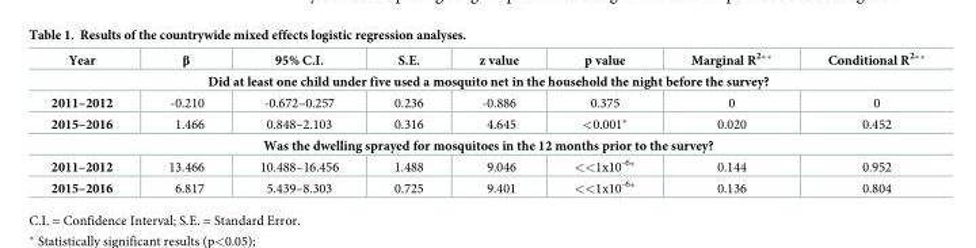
<table><thead><tr><td>Year</td><td>β</td><td>95% C.I.</td><td>S.E.</td><td>z value</td><td>p value</td><td>Marginal R<sup>2</sup>**</td><td>Conditional R<sup>2</sup>**</td></tr></thead><tbody><tr><td colspan="8">Did at least one child under five used a mosquito net in the household the night before the survey?</td></tr><tr><td>2011–2012</td><td>-0.210</td><td>-0.672–0.257</td><td>0.236</td><td>-0.886</td><td>0.375</td><td>0</td><td>0</td></tr><tr><td>2015–2016</td><td>1.466</td><td>0.848–2.103</td><td>0.316</td><td>4.645</td><td>&lt;0.001*</td><td>0.020</td><td>0.452</td></tr><tr><td colspan="8">Was the dwelling sprayed for mosquitoes in the 12 months prior to the survey?</td></tr><tr><td>2011–2012</td><td>13.466</td><td>10.488–16.456</td><td>1.488</td><td>9.046</td><td>&lt;&lt;1x10<sup>-6</sup>*</td><td>0.144</td><td>0.952</td></tr><tr><td>2015–2016</td><td>6.817</td><td>5.439–8.303</td><td>0.725</td><td>9.401</td><td>&lt;&lt;1x10<sup>-6</sup>*</td><td>0.136</td><td>0.804</td></tr></tbody></table>